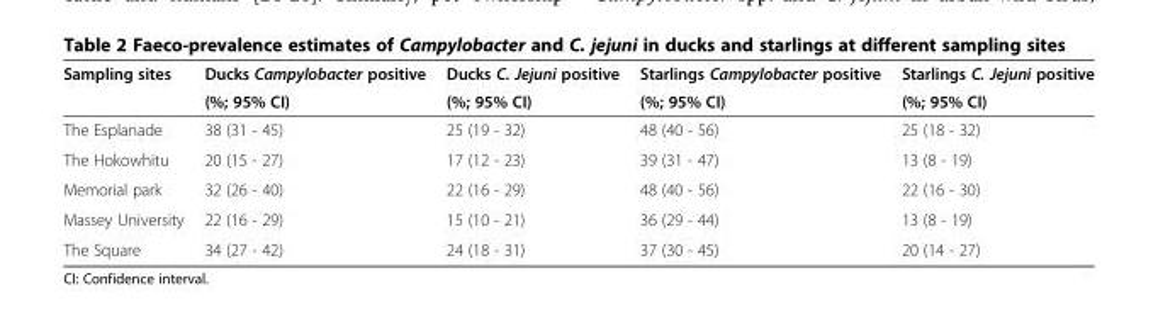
<table><thead><tr><td rowspan="2">Sampling sites</td><td rowspan="2">Ducks Campylobacter positive (%; 95% CI)</td><td rowspan="2">Ducks C. Jejuni positive (%; 95% CI)</td><td rowspan="2">Starlings Campylobacter positive (%; 95% CI)</td><td rowspan="2">Starlings C. Jejuni positive (%; 95% CI)</td></tr><tr></tr></thead><tbody><tr><td>The Esplanade</td><td>38 (31 - 45)</td><td>25 (19 - 32)</td><td>48 (40 - 56)</td><td>25 (18 - 32)</td></tr><tr><td>The Hokowhitu</td><td>20 (15 - 27)</td><td>17 (12 - 23)</td><td>39 (31 - 47)</td><td>13 (8 - 19)</td></tr><tr><td>Memorial park</td><td>32 (26 - 40)</td><td>22 (16 - 29)</td><td>48 (40 - 56)</td><td>22 (16 - 30)</td></tr><tr><td>Massey University</td><td>22 (16 - 29)</td><td>15 (10 - 21)</td><td>36 (29 - 44)</td><td>13 (8 - 19)</td></tr><tr><td>The Square</td><td>34 (27 - 42)</td><td>24 (18 - 31)</td><td>37 (30 - 45)</td><td>20 (14 - 27)</td></tr></tbody></table>